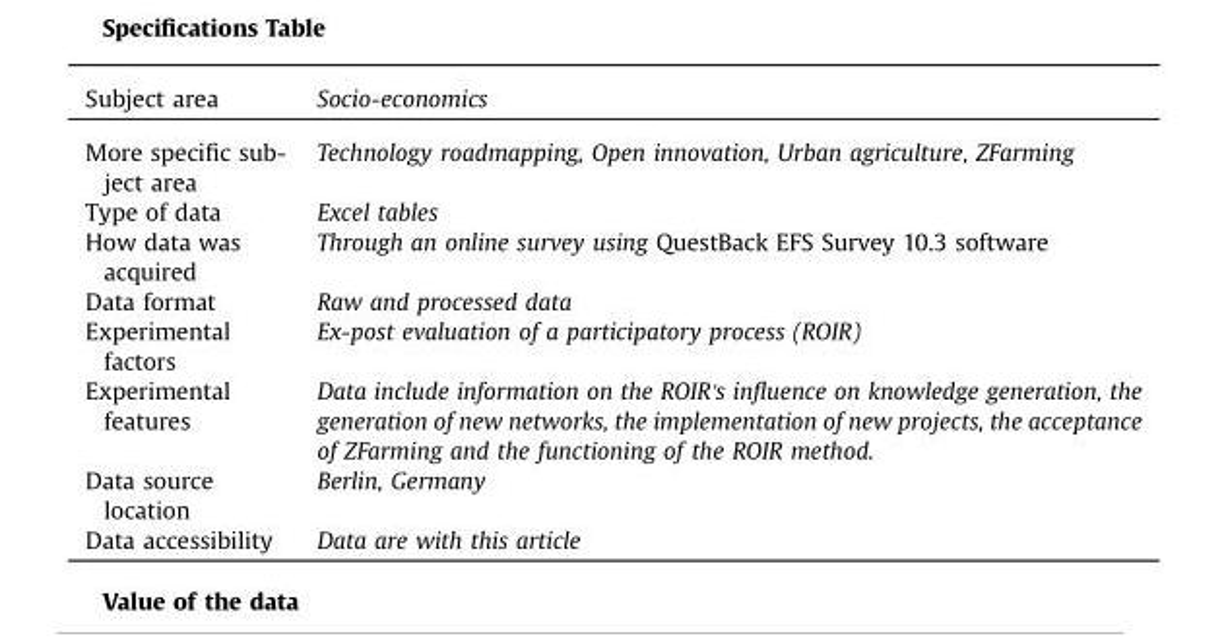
<table><thead><tr><td>Subject area</td><td>Socio-economics</td></tr></thead><tbody><tr><td>More specific sub- ject area</td><td>Technology roadmapping, Open innovation, Urban agriculture, ZFarming</td></tr><tr><td>Type of data</td><td>Excel tables</td></tr><tr><td>How data was acquired</td><td>Through an online survey using QuestBack EFS Survey 10.3 software</td></tr><tr><td>Data format</td><td>Raw and processed data</td></tr><tr><td>Experimental factors</td><td>Ex-post evaluation of a participatory process (ROIR)</td></tr><tr><td>Experimental features</td><td>Data include information on the ROIR&#x27;s influence on knowledge generation, the generation of new networks, the implementation of new projects, the acceptance of ZFarming and the functioning of the ROIR method.</td></tr><tr><td>Data source location</td><td>Berlin, Germany</td></tr><tr><td>Data accessibility</td><td>Data are with this article</td></tr></tbody></table>